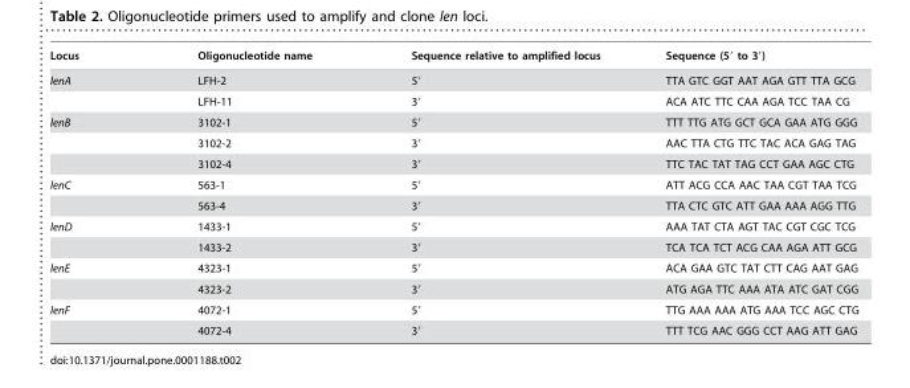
<table><thead><tr><td>Locus</td><td>Oligonucleotide name</td><td>Sequence relative to amplified locus</td><td>Sequence (5′ to 3′)</td></tr></thead><tbody><tr><td rowspan="2">lenA</td><td>LFH-2</td><td>5′</td><td>TTA GTC GGT AAT AGA GTT TTA GCG</td></tr><tr><td>LFH-11</td><td>3′</td><td>ACA ATC TTC CAA AGA TCC TAA CG</td></tr><tr><td rowspan="3">lenB</td><td>3102-1</td><td>5′</td><td>TTT TTG ATG GCT GCA GAA ATG GGG</td></tr><tr><td>3102-2</td><td>3′</td><td>AAC TTA CTG TTC TAC ACA GAG TAG</td></tr><tr><td>3102-4</td><td>3′</td><td>TTC TAC TAT TAG CCT GAA AGC CTG</td></tr><tr><td rowspan="2">lenC</td><td>563-1</td><td>5′</td><td>ATT ACG CCA AAC TAA CGT TAA TCG</td></tr><tr><td>563-4</td><td>3′</td><td>TTA CTC GTC ATT GAA AAA AGG TTG</td></tr><tr><td rowspan="2">lenD</td><td>1433-1</td><td>5′</td><td>AAA TAT CTA AGT TAC CGT CGC TCG</td></tr><tr><td>1433-2</td><td>3′</td><td>TCA TCA TCT ACG CAA AGA ATT GCG</td></tr><tr><td rowspan="2">lenE</td><td>4323-1</td><td>5′</td><td>ACA GAA GTC TAT CTT CAG AAT GAG</td></tr><tr><td>4323-2</td><td>3′</td><td>ATG AGA TTC AAA ATA ATC GAT CGG</td></tr><tr><td rowspan="2">lenF</td><td>4072-1</td><td>5′</td><td>TTG AAA AAA ATG AAA TCC AGC CTG</td></tr><tr><td>4072-4</td><td>3′</td><td>TTT TCG AAC GGG CCT AAG ATT GAG</td></tr></tbody></table>